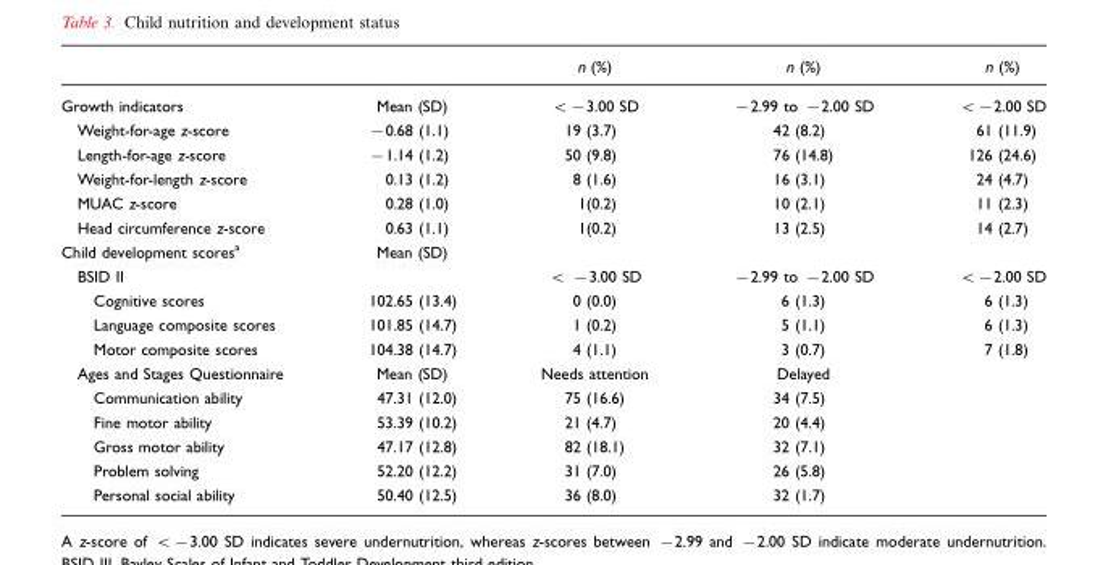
<table><thead><tr><td></td><td></td><td>n (%)</td><td>n (%)</td><td>n (%)</td></tr></thead><tbody><tr><td>Growth indicators</td><td>Mean (SD)</td><td>&lt;−3.00 SD</td><td>−2.99 to −2.00 SD</td><td>&lt;−2.00 SD</td></tr><tr><td>Weight-for-age z-score</td><td>−0.68 (1.1)</td><td>19 (3.7)</td><td>42 (8.2)</td><td>61 (11.9)</td></tr><tr><td>Length-for-age z-score</td><td>−1.14 (1.2)</td><td>50 (9.8)</td><td>76 (14.8)</td><td>126 (24.6)</td></tr><tr><td>Weight-for-length z-score</td><td>0.13 (1.2)</td><td>8 (1.6)</td><td>16 (3.1)</td><td>24 (4.7)</td></tr><tr><td>MUAC z-score</td><td>0.28 (1.0)</td><td>1(0.2)</td><td>10 (2.1)</td><td>11 (2.3)</td></tr><tr><td>Head circumference z-score</td><td>0.63 (1.1)</td><td>1(0.2)</td><td>13 (2.5)</td><td>14 (2.7)</td></tr><tr><td>Child development scores<sup>a</sup></td><td>Mean (SD)</td><td></td><td></td><td></td></tr><tr><td>BSID II</td><td></td><td>&lt; −3.00 SD</td><td>−2.99 to −2.00 SD</td><td>&lt;−2.00 SD</td></tr><tr><td>Cognitive scores</td><td>102.65 (13.4)</td><td>0 (0.0)</td><td>6 (1.3)</td><td>6 (1.3)</td></tr><tr><td>Language composite scores</td><td>101.85 (14.7)</td><td>1 (0.2)</td><td>5 (1.1)</td><td>6 (1.3)</td></tr><tr><td>Motor composite scores</td><td>104.38 (14.7)</td><td>4 (1.1)</td><td>3 (0.7)</td><td>7 (1.8)</td></tr><tr><td>Ages and Stages Questionnaire</td><td>Mean (SD)</td><td>Needs attention</td><td>Delayed</td><td></td></tr><tr><td>Communication ability</td><td>47.31 (12.0)</td><td>75 (16.6)</td><td>34 (7.5)</td><td></td></tr><tr><td>Fine motor ability</td><td>53.39 (10.2)</td><td>21 (4.7)</td><td>20 (4.4)</td><td></td></tr><tr><td>Gross motor ability</td><td>47.17 (12.8)</td><td>82 (18.1)</td><td>32 (7.1)</td><td></td></tr><tr><td>Problem solving</td><td>52.20 (12.2)</td><td>31 (7.0)</td><td>26 (5.8)</td><td></td></tr><tr><td>Personal social ability</td><td>50.40 (12.5)</td><td>36 (8.0)</td><td>32 (1.7)</td><td></td></tr></tbody></table>